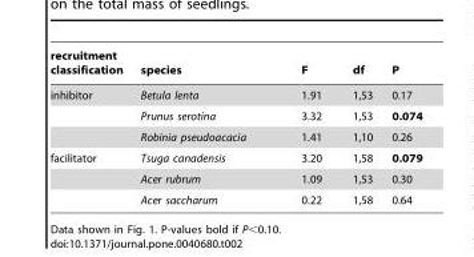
<table><thead><tr><td>recruitment classification</td><td>species</td><td>F</td><td>df</td><td>P</td></tr></thead><tbody><tr><td rowspan="3">inhibitor</td><td>Betula lenta</td><td>1.91</td><td>1,53</td><td>0.17</td></tr><tr><td>Prunus serotina</td><td>3.32</td><td>1,53</td><td>0.074</td></tr><tr><td>Robinia pseudoacacia</td><td>1.41</td><td>1,10</td><td>0.26</td></tr><tr><td rowspan="3">facilitator</td><td>Tsuga canadensis</td><td>3.20</td><td>1,58</td><td>0.079</td></tr><tr><td>Acer rubrum</td><td>1.09</td><td>1,53</td><td>0.30</td></tr><tr><td>Acer saccharum</td><td>0.22</td><td>1,58</td><td>0.64</td></tr></tbody></table>